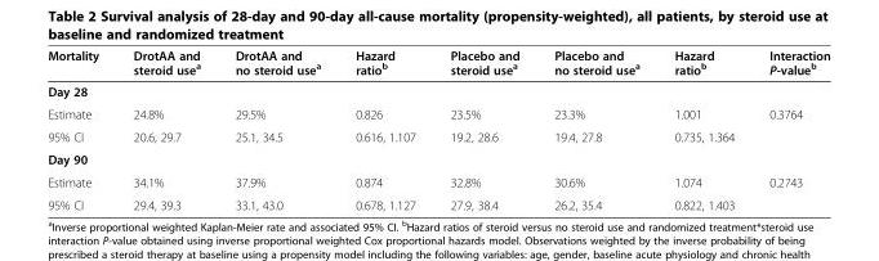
<table><thead><tr><td>Mortality</td><td>DrotAA and steroid use<sup>a</sup></td><td>DrotAA and no steroid use<sup>a</sup></td><td>Hazard ratio<sup>b</sup></td><td>Placebo and steroid use<sup>a</sup></td><td>Placebo and no steroid use<sup>a</sup></td><td>Hazard ratio<sup>b</sup></td><td>Interaction P-value<sup>b</sup></td></tr></thead><tbody><tr><td colspan="8">Day 28</td></tr><tr><td>Estimate</td><td>24.8%</td><td>29.5%</td><td>0.826</td><td>23.5%</td><td>23.3%</td><td>1.001</td><td>0.3764</td></tr><tr><td>95% CI</td><td>20.6, 29.7</td><td>25.1, 34.5</td><td>0.616, 1.107</td><td>19.2, 28.6</td><td>19.4, 27.8</td><td>0.735, 1.364</td><td></td></tr><tr><td colspan="8">Day 90</td></tr><tr><td>Estimate</td><td>34.1%</td><td>37.9%</td><td>0.874</td><td>32.8%</td><td>30.6%</td><td>1.074</td><td>0.2743</td></tr><tr><td>95% CI</td><td>29.4, 39.3</td><td>33.1, 43.0</td><td>0.678, 1.127</td><td>27.9, 38.4</td><td>26.2, 35.4</td><td>0.822, 1.403</td><td></td></tr></tbody></table>